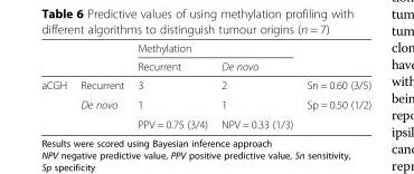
<table><thead><tr><td rowspan="2"></td><td rowspan="2"></td><td colspan="2">Methylation</td><td rowspan="2"></td></tr><tr><td>Recurrent</td><td>De novo</td></tr></thead><tbody><tr><td rowspan="3">aCGH</td><td>Recurrent</td><td>3</td><td>2</td><td>Sn = 0.60 (3/5)</td></tr><tr><td>De novo</td><td>1</td><td>1</td><td>Sp = 0.50 (1/2)</td></tr><tr><td></td><td>PPV = 0.75 (3/4)</td><td>NPV = 0.33 (1/3)</td><td></td></tr></tbody></table>